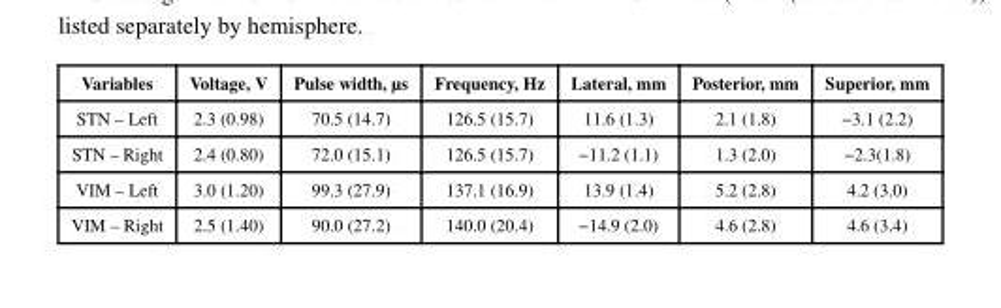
<table><thead><tr><td>Variables</td><td>Voltage, V</td><td>Pulse width, μs</td><td>Frequency, Hz</td><td>Lateral, mm</td><td>Posterior, mm</td><td>Superior, mm</td></tr></thead><tbody><tr><td>STN – Left</td><td>2.3 (0.98)</td><td>70.5 (14.7)</td><td>126.5 (15.7)</td><td>11.6 (1.3)</td><td>2.1 (1.8)</td><td>−3.1 (2.2)</td></tr><tr><td>STN – Right</td><td>2.4 (0.80)</td><td>72.0 (15.1)</td><td>126.5 (15.7)</td><td>−11.2 (1.1)</td><td>1.3 (2.0)</td><td>−2.3(1.8)</td></tr><tr><td>VIM – Left</td><td>3.0 (1.20)</td><td>99.3 (27.9)</td><td>137.1 (16.9)</td><td>13.9 (1.4)</td><td>5.2 (2.8)</td><td>4.2 (3.0)</td></tr><tr><td>VIM – Right</td><td>2.5 (1.40)</td><td>90.0 (27.2)</td><td>140.0 (20.4)</td><td>−14.9 (2.0)</td><td>4.6 (2.8)</td><td>4.6 (3.4)</td></tr></tbody></table>